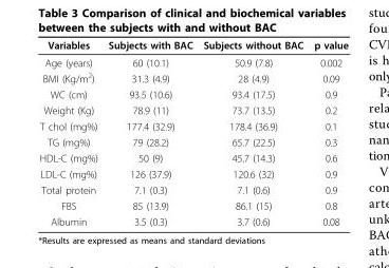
<table><thead><tr><td>Variables</td><td>Subjects with BAC</td><td>Subjects without BAC</td><td>p value</td></tr></thead><tbody><tr><td>Age (years)</td><td>60 (10.1)</td><td>50.9 (7.8)</td><td>0.002</td></tr><tr><td>BMI (Kg/m<sup>2</sup>)</td><td>31.3 (4.9)</td><td>28 (4.9)</td><td>0.09</td></tr><tr><td>WC (cm)</td><td>93.5 (10.6)</td><td>93.4 (17.5)</td><td>0.9</td></tr><tr><td>Weight (Kg)</td><td>78.9 (11)</td><td>73.7 (13.5)</td><td>0.2</td></tr><tr><td>T chol (mg%)</td><td>177.4 (32.9)</td><td>178.4 (36.9)</td><td>0.1</td></tr><tr><td>TG (mg%)</td><td>79 (28.2)</td><td>65.7 (22.5)</td><td>0.3</td></tr><tr><td>HDL-C (mg%)</td><td>50 (9)</td><td>45.7 (14.3)</td><td>0.6</td></tr><tr><td>LDL-C (mg%)</td><td>126 (37.9)</td><td>120.6 (32)</td><td>0.9</td></tr><tr><td>Total protein</td><td>7.1 (0.3)</td><td>7.1 (0.6)</td><td>0.9</td></tr><tr><td>FBS</td><td>85 (13.9)</td><td>86.1 (15)</td><td>0.8</td></tr><tr><td>Albumin</td><td>3.5 (0.3)</td><td>3.7 (0.6)</td><td>0.08</td></tr></tbody></table>